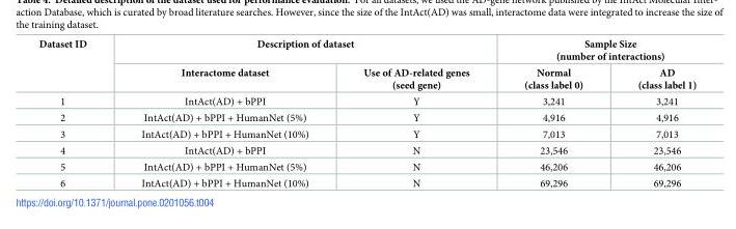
<table><thead><tr><td rowspan="2">Dataset ID</td><td colspan="2">Description of dataset</td><td colspan="2">Sample Size (number of interactions)</td></tr><tr><td>Interactome dataset</td><td>Use of AD-related genes (seed gene)</td><td>Normal (class label 0)</td><td>AD (class label 1)</td></tr></thead><tbody><tr><td>1</td><td>IntAct(AD) + bPPI</td><td>Y</td><td>3,241</td><td>3,241</td></tr><tr><td>2</td><td>IntAct(AD) + bPPI + HumanNet (5%)</td><td>Y</td><td>4,916</td><td>4,916</td></tr><tr><td>3</td><td>IntAct(AD) + bPPI + HumanNet (10%)</td><td>Y</td><td>7,013</td><td>7,013</td></tr><tr><td>4</td><td>IntAct(AD) + bPPI</td><td>N</td><td>23,546</td><td>23,546</td></tr><tr><td>5</td><td>IntAct(AD) + bPPI + HumanNet (5%)</td><td>N</td><td>46,206</td><td>46,206</td></tr><tr><td>6</td><td>IntAct(AD) + bPPI + HumanNet (10%)</td><td>N</td><td>69,296</td><td>69,296</td></tr></tbody></table>